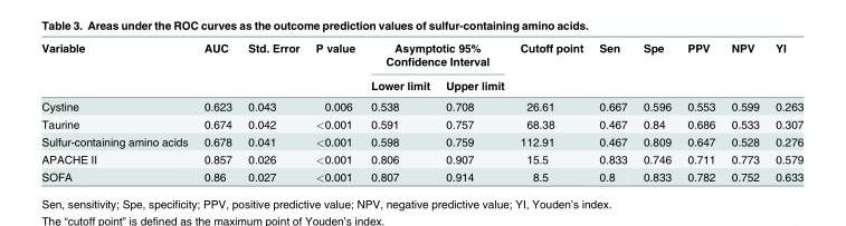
<table><thead><tr><td rowspan="2">Variable</td><td rowspan="2">AUC</td><td rowspan="2">Std. Error</td><td rowspan="2">P value</td><td colspan="2">Asymptotic 95% Confidence Interval</td><td rowspan="2">Cutoff point</td><td rowspan="2">Sen</td><td rowspan="2">Spe</td><td rowspan="2">PPV</td><td rowspan="2">NPV</td><td rowspan="2">YI</td></tr><tr><td>Lower limit</td><td>Upper limit</td></tr></thead><tbody><tr><td>Cystine</td><td>0.623</td><td>0.043</td><td>0.006</td><td>0.538</td><td>0.708</td><td>26.61</td><td>0.667</td><td>0.596</td><td>0.553</td><td>0.599</td><td>0.263</td></tr><tr><td>Taurine</td><td>0.674</td><td>0.042</td><td>&lt;0.001</td><td>0.591</td><td>0.757</td><td>68.38</td><td>0.467</td><td>0.84</td><td>0.686</td><td>0.533</td><td>0.307</td></tr><tr><td>Sulfur-containing amino acids</td><td>0.678</td><td>0.041</td><td>&lt;0.001</td><td>0.598</td><td>0.759</td><td>112.91</td><td>0.467</td><td>0.809</td><td>0.647</td><td>0.528</td><td>0.276</td></tr><tr><td>APACHE II</td><td>0.857</td><td>0.026</td><td>&lt;0.001</td><td>0.806</td><td>0.907</td><td>15.5</td><td>0.833</td><td>0.746</td><td>0.711</td><td>0.773</td><td>0.579</td></tr><tr><td>SOFA</td><td>0.86</td><td>0.027</td><td>&lt;0.001</td><td>0.807</td><td>0.914</td><td>8.5</td><td>0.8</td><td>0.833</td><td>0.782</td><td>0.752</td><td>0.633</td></tr></tbody></table>